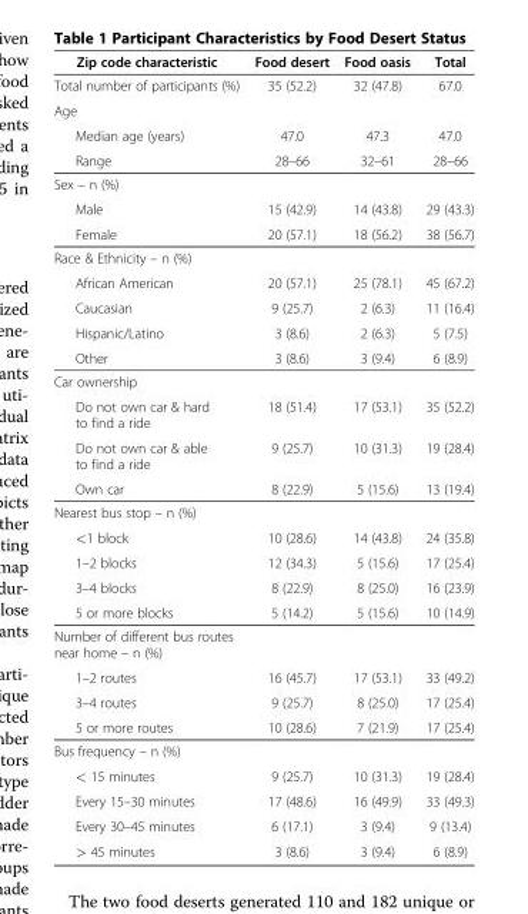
<table><thead><tr><td>Zip code characteristic</td><td>Food desert</td><td>Food oasis</td><td>Total</td></tr></thead><tbody><tr><td>Total number of participants (%)</td><td>35 (52.2)</td><td>32 (47.8)</td><td>67.0</td></tr><tr><td colspan="4">Age</td></tr><tr><td>Median age (years)</td><td>47.0</td><td>47.3</td><td>47.0</td></tr><tr><td>Range</td><td>28–66</td><td>32–61</td><td>28–66</td></tr><tr><td colspan="4">Sex – n (%)</td></tr><tr><td>Male</td><td>15 (42.9)</td><td>14 (43.8)</td><td>29 (43.3)</td></tr><tr><td>Female</td><td>20 (57.1)</td><td>18 (56.2)</td><td>38 (56.7)</td></tr><tr><td colspan="4">Race &amp; Ethnicity – n (%)</td></tr><tr><td>African American</td><td>20 (57.1)</td><td>25 (78.1)</td><td>45 (67.2)</td></tr><tr><td>Caucasian</td><td>9 (25.7)</td><td>2 (6.3)</td><td>11 (16.4)</td></tr><tr><td>Hispanic/Latino</td><td>3 (8.6)</td><td>2 (6.3)</td><td>5 (7.5)</td></tr><tr><td>Other</td><td>3 (8.6)</td><td>3 (9.4)</td><td>6 (8.9)</td></tr><tr><td colspan="4">Car ownership</td></tr><tr><td>Do not own car &amp; hard to find a ride</td><td>18 (51.4)</td><td>17 (53.1)</td><td>35 (52.2)</td></tr><tr><td>Do not own car &amp; able to find a ride</td><td>9 (25.7)</td><td>10 (31.3)</td><td>19 (28.4)</td></tr><tr><td>Own car</td><td>8 (22.9)</td><td>5 (15.6)</td><td>13 (19.4)</td></tr><tr><td colspan="4">Nearest bus stop – n (%)</td></tr><tr><td>&lt;1 block</td><td>10 (28.6)</td><td>14 (43.8)</td><td>24 (35.8)</td></tr><tr><td>1–2 blocks</td><td>12 (34.3)</td><td>5 (15.6)</td><td>17 (25.4)</td></tr><tr><td>3–4 blocks</td><td>8 (22.9)</td><td>8 (25.0)</td><td>16 (23.9)</td></tr><tr><td>5 or more blocks</td><td>5 (14.2)</td><td>5 (15.6)</td><td>10 (14.9)</td></tr><tr><td colspan="4">Number of different bus routes near home – n (%)</td></tr><tr><td>1–2 routes</td><td>16 (45.7)</td><td>17 (53.1)</td><td>33 (49.2)</td></tr><tr><td>3–4 routes</td><td>9 (25.7)</td><td>8 (25.0)</td><td>17 (25.4)</td></tr><tr><td>5 or more routes</td><td>10 (28.6)</td><td>7 (21.9)</td><td>17 (25.4)</td></tr><tr><td colspan="4">Bus frequency – n (%)</td></tr><tr><td>&lt; 15 minutes</td><td>9 (25.7)</td><td>10 (31.3)</td><td>19 (28.4)</td></tr><tr><td>Every 15–30 minutes</td><td>17 (48.6)</td><td>16 (49.9)</td><td>33 (49.3)</td></tr><tr><td>Every 30–45 minutes</td><td>6 (17.1)</td><td>3 (9.4)</td><td>9 (13.4)</td></tr><tr><td>&gt; 45 minutes</td><td>3 (8.6)</td><td>3 (9.4)</td><td>6 (8.9)</td></tr></tbody></table>